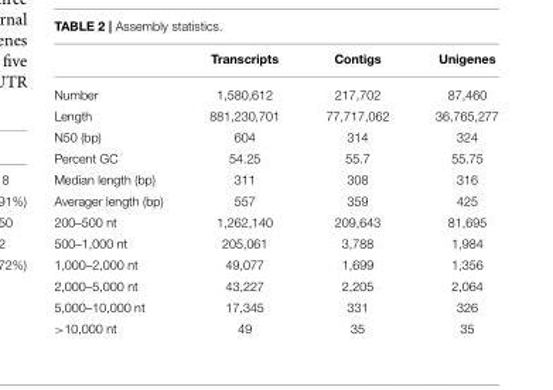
<table><thead><tr><td></td><td>Transcripts</td><td>Contigs</td><td>Unigenes</td></tr></thead><tbody><tr><td>Number</td><td>1,580,612</td><td>217,702</td><td>87,460</td></tr><tr><td>Length</td><td>881,230,701</td><td>77,717,062</td><td>36,765,277</td></tr><tr><td>N50 (bp)</td><td>604</td><td>314</td><td>324</td></tr><tr><td>Percent GC</td><td>54.25</td><td>55.7</td><td>55.75</td></tr><tr><td>Median length (bp)</td><td>311</td><td>308</td><td>316</td></tr><tr><td>Averager length (bp)</td><td>557</td><td>359</td><td>425</td></tr><tr><td>200–500 nt</td><td>1,262,140</td><td>209,643</td><td>81,695</td></tr><tr><td>500–1,000 nt</td><td>205,061</td><td>3,788</td><td>1,984</td></tr><tr><td>1,000–2,000 nt</td><td>49,077</td><td>1,699</td><td>1,356</td></tr><tr><td>2,000–5,000 nt</td><td>43,227</td><td>2,205</td><td>2,064</td></tr><tr><td>5,000–10,000 nt</td><td>17,345</td><td>331</td><td>326</td></tr><tr><td>&gt;10,000 nt</td><td>49</td><td>35</td><td>35</td></tr></tbody></table>